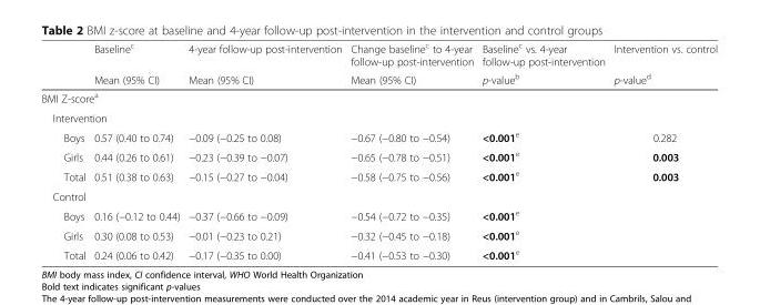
<table><thead><tr><td rowspan="2"></td><td rowspan="2">Baseline<sup>c</sup> Mean (95% CI)</td><td rowspan="2">4-year follow-up post-intervention Mean (95% CI)</td><td rowspan="2">Change baseline<sup>c</sup> to 4-year follow-up post-intervention Mean (95% CI)</td><td rowspan="2">Baseline<sup>c</sup> vs. 4-year follow-up post-intervention p-value<sup>b</sup></td><td rowspan="2">Intervention vs. control p-value<sup>d</sup></td></tr><tr></tr></thead><tbody><tr><td colspan="6">BMI Z-score<sup>a</sup></td></tr><tr><td colspan="6">Intervention</td></tr><tr><td>Boys</td><td>0.57 (0.40 to 0.74)</td><td>−0.09 (−0.25 to 0.08)</td><td>−0.67 (−0.80 to −0.54)</td><td>&lt;0.001<sup>e</sup></td><td>0.282</td></tr><tr><td>Girls</td><td>0.44 (0.26 to 0.61)</td><td>−0.23 (−0.39 to −0.07)</td><td>−0.65 (−0.78 to −0.51)</td><td>&lt;0.001<sup>e</sup></td><td>0.003</td></tr><tr><td>Total</td><td>0.51 (0.38 to 0.63)</td><td>−0.15 (−0.27 to −0.04)</td><td>−0.58 (−0.75 to −0.56)</td><td>&lt;0.001<sup>e</sup></td><td>0.003</td></tr><tr><td colspan="6">Control</td></tr><tr><td>Boys</td><td>0.16 (−0.12 to 0.44)</td><td>−0.37 (−0.66 to −0.09)</td><td>−0.54 (−0.72 to −0.35)</td><td>&lt;0.001<sup>e</sup></td><td></td></tr><tr><td>Girls</td><td>0.30 (0.08 to 0.53)</td><td>−0.01 (−0.23 to 0.21)</td><td>−0.32 (−0.45 to −0.18)</td><td>&lt;0.001<sup>e</sup></td><td></td></tr><tr><td>Total</td><td>0.24 (0.06 to 0.42)</td><td>−0.17 (−0.35 to 0.00)</td><td>−0.41 (−0.53 to −0.30)</td><td>&lt;0.001<sup>e</sup></td><td></td></tr></tbody></table>